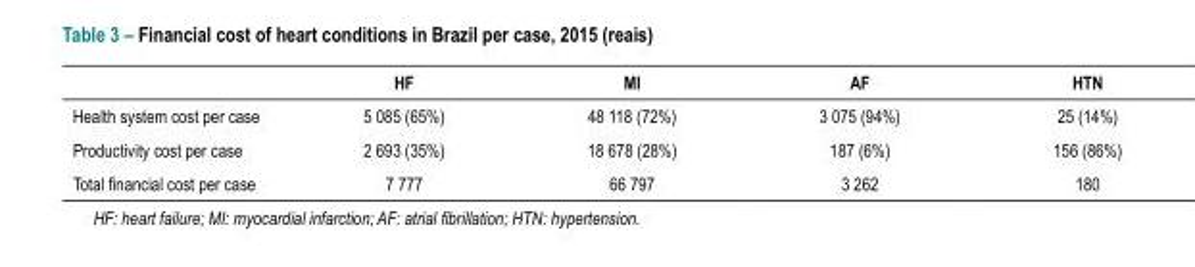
<table><thead><tr><td></td><td>HF</td><td>MI</td><td>AF</td><td>HTN</td></tr></thead><tbody><tr><td>Health system cost per case</td><td>5 085 (65%)</td><td>48 118 (72%)</td><td>3 075 (94%)</td><td>25 (14%)</td></tr><tr><td>Productivity cost per case</td><td>2 693 (35%)</td><td>18 678 (28%)</td><td>187 (6%)</td><td>156 (86%)</td></tr><tr><td>Total financial cost per case</td><td>7 777</td><td>66 797</td><td>3 262</td><td>180</td></tr></tbody></table>